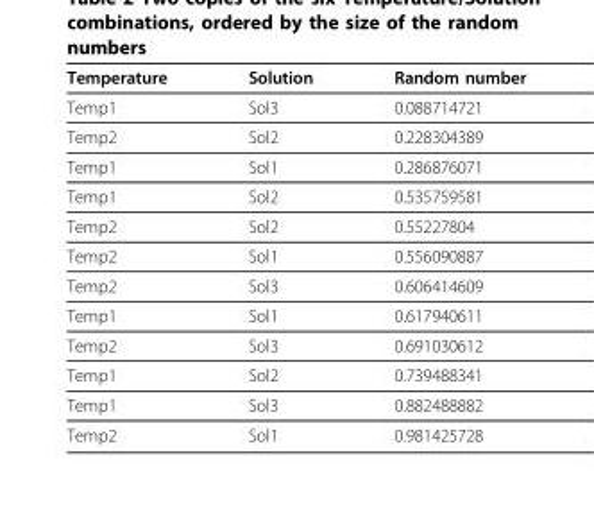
<table><thead><tr><td>Temperature</td><td>Solution</td><td>Random number</td></tr></thead><tbody><tr><td>Temp1</td><td>Sol3</td><td>0.088714721</td></tr><tr><td>Temp2</td><td>Sol2</td><td>0.228304389</td></tr><tr><td>Temp1</td><td>Sol1</td><td>0.286876071</td></tr><tr><td>Temp1</td><td>Sol2</td><td>0.535759581</td></tr><tr><td>Temp2</td><td>Sol2</td><td>0.55227804</td></tr><tr><td>Temp2</td><td>Sol1</td><td>0.556090887</td></tr><tr><td>Temp2</td><td>Sol3</td><td>0.606414609</td></tr><tr><td>Temp1</td><td>Sol1</td><td>0.617940611</td></tr><tr><td>Temp2</td><td>Sol3</td><td>0.691030612</td></tr><tr><td>Temp1</td><td>Sol2</td><td>0.739488341</td></tr><tr><td>Temp1</td><td>Sol3</td><td>0.882488882</td></tr><tr><td>Temp2</td><td>Sol1</td><td>0.981425728</td></tr></tbody></table>